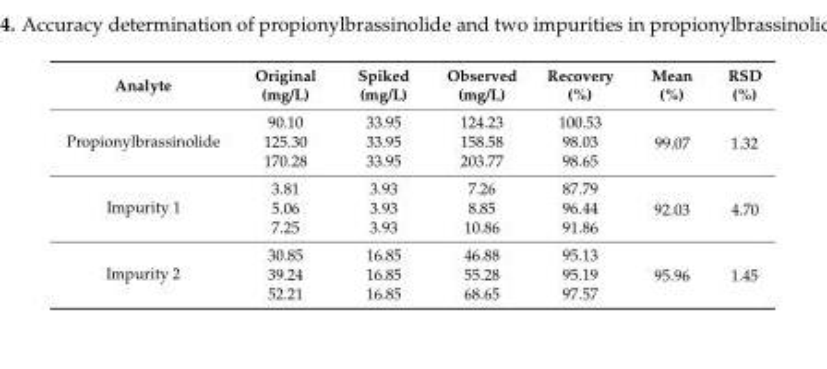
<table><thead><tr><td>Analyte</td><td>Original (mg/L)</td><td>Spiked (mg/L)</td><td>Observed (mg/L)</td><td>Recovery (%)</td><td>Mean (%)</td><td>RSD (%)</td></tr></thead><tbody><tr><td rowspan="3">Propionylbrassinolide</td><td>90.10</td><td>33.95</td><td>124.23</td><td>100.53</td><td rowspan="3">99.07</td><td rowspan="3">1.32</td></tr><tr><td>125.30</td><td>33.95</td><td>158.58</td><td>98.03</td></tr><tr><td>170.28</td><td>33.95</td><td>203.77</td><td>98.65</td></tr><tr><td rowspan="3">Impurity 1</td><td>3.81</td><td>3.93</td><td>7.26</td><td>87.79</td><td rowspan="3">92.03</td><td rowspan="3">4.70</td></tr><tr><td>5.06</td><td>3.93</td><td>8.85</td><td>96.44</td></tr><tr><td>7.25</td><td>3.93</td><td>10.86</td><td>91.86</td></tr><tr><td rowspan="3">Impurity 2</td><td>30.85</td><td>16.85</td><td>46.88</td><td>95.13</td><td rowspan="3">95.96</td><td rowspan="3">1.45</td></tr><tr><td>39.24</td><td>16.85</td><td>55.28</td><td>95.19</td></tr><tr><td>52.21</td><td>16.85</td><td>68.65</td><td>97.57</td></tr></tbody></table>